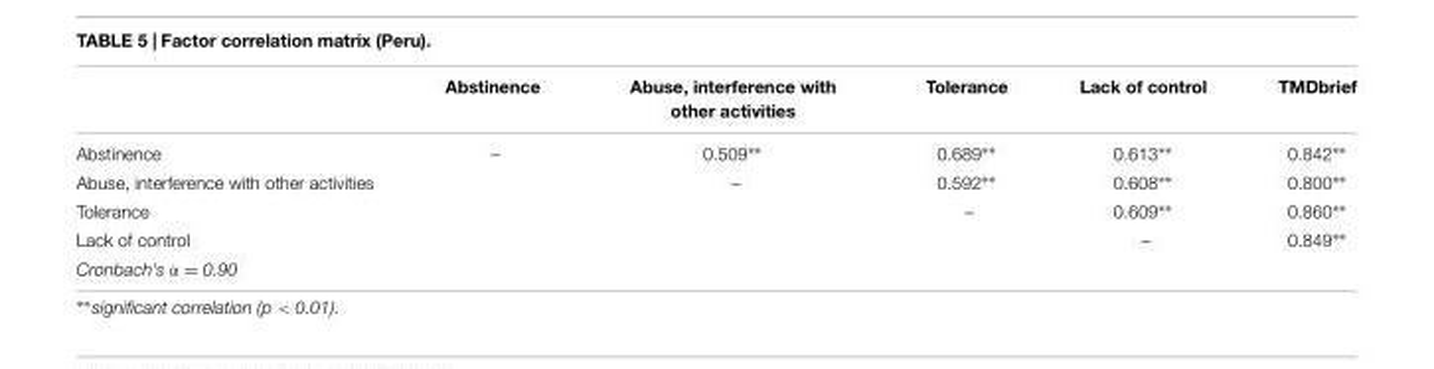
<table><thead><tr><td></td><td>Abstinence</td><td>Abuse, interference with other activities</td><td>Tolerance</td><td>Lack of control</td><td>TMDbrief</td></tr></thead><tbody><tr><td>Abstinence</td><td>–</td><td>0.509∗∗</td><td>0.689∗∗</td><td>0.613∗∗</td><td>0.842∗∗</td></tr><tr><td>Abuse, interference with other activities</td><td></td><td>–</td><td>0.592∗∗</td><td>0.608∗∗</td><td>0.800∗∗</td></tr><tr><td>Tolerance</td><td></td><td></td><td>–</td><td>0.609∗∗</td><td>0.860∗∗</td></tr><tr><td>Lack of control</td><td></td><td></td><td></td><td>–</td><td>0.849∗∗</td></tr><tr><td>Cronbach’s α = 0.90</td><td></td><td></td><td></td><td></td><td></td></tr></tbody></table>